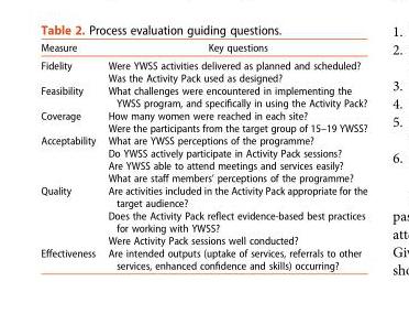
<table><thead><tr><td>Measure</td><td>Key questions</td></tr></thead><tbody><tr><td>Fidelity</td><td>Were YWSS activities delivered as planned and scheduled? Was the Activity Pack used as designed?</td></tr><tr><td>Feasibility</td><td>What challenges were encountered in implementing the YWSS program, and specifically in using the Activity Pack?</td></tr><tr><td>Coverage</td><td>How many women were reached in each site? Were the participants from the target group of 15–19 YWSS?</td></tr><tr><td>Acceptability</td><td>What are YWSS perceptions of the programme? Do YWSS actively participate in Activity Pack sessions? Are YWSS able to attend meetings and services easily? What are staff members’ perceptions of the programme?</td></tr><tr><td>Quality</td><td>Are activities included in the Activity Pack appropriate for the target audience? Does the Activity Pack reflect evidence-based best practices for working with YWSS? Were Activity Pack sessions well conducted?</td></tr><tr><td>Effectiveness</td><td>Are intended outputs (uptake of services, referrals to other services, enhanced confidence and skills) occurring?</td></tr></tbody></table>